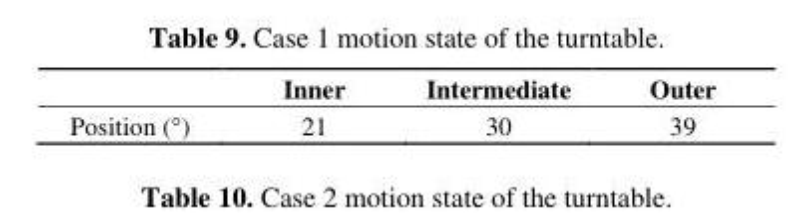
<table><thead><tr><td></td><td>Inner</td><td>Intermediate</td><td>Outer</td></tr></thead><tbody><tr><td>Position (°)</td><td>21</td><td>30</td><td>39</td></tr></tbody></table>